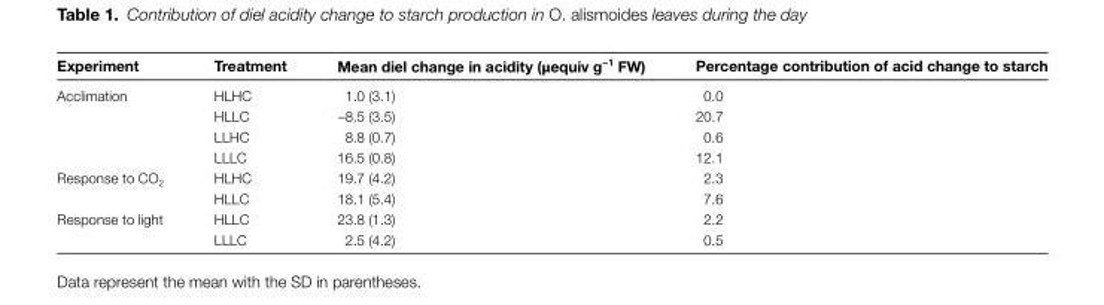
<table><thead><tr><td>Experiment</td><td>Treatment</td><td>Mean diel change in acidity (µequiv g<sup>−1</sup> FW)</td><td>Percentage contribution of acid change to starch</td></tr></thead><tbody><tr><td rowspan="4">Acclimation</td><td>HLHC</td><td>1.0 (3.1)</td><td>0.0</td></tr><tr><td>HLLC</td><td>–8.5 (3.5)</td><td>20.7</td></tr><tr><td>LLHC</td><td>8.8 (0.7)</td><td>0.6</td></tr><tr><td>LLLC</td><td>16.5 (0.8)</td><td>12.1</td></tr><tr><td rowspan="2">Response to CO<sub>2</sub></td><td>HLHC</td><td>19.7 (4.2)</td><td>2.3</td></tr><tr><td>HLLC</td><td>18.1 (5.4)</td><td>7.6</td></tr><tr><td rowspan="2">Response to light</td><td>HLLC</td><td>23.8 (1.3)</td><td>2.2</td></tr><tr><td>LLLC</td><td>2.5 (4.2)</td><td>0.5</td></tr></tbody></table>